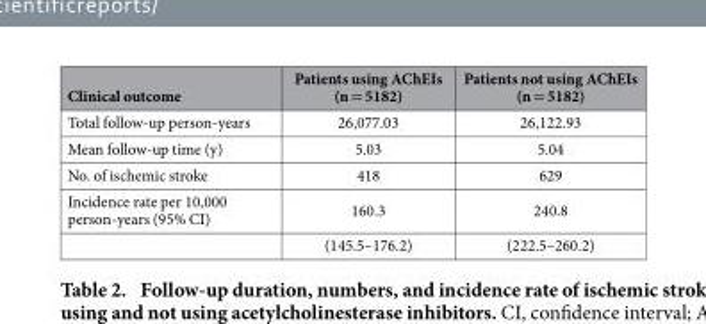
<table><thead><tr><td>Clinical outcome</td><td>Patients using AChEIs (n = 5182)</td><td>Patients not using AChEIs (n = 5182)</td></tr></thead><tbody><tr><td>Total follow-up person-years</td><td>26,077.03</td><td>26,122.93</td></tr><tr><td>Mean follow-up time (y)</td><td>5.03</td><td>5.04</td></tr><tr><td>No. of ischemic stroke</td><td>418</td><td>629</td></tr><tr><td rowspan="2">Incidence rate per 10,000 person-years (95% CI)</td><td>160.3</td><td>240.8</td></tr><tr><td>(145.5–176.2)</td><td>(222.5–260.2)</td></tr></tbody></table>